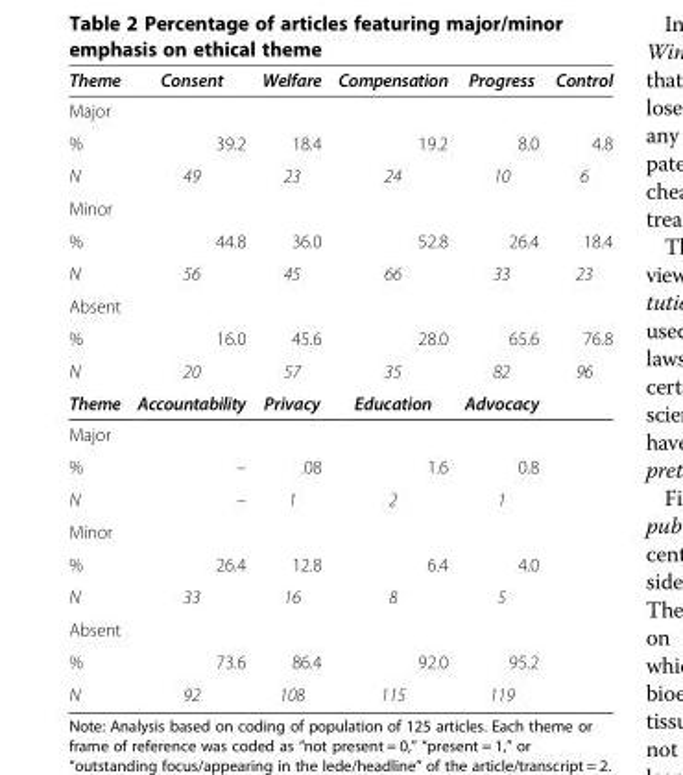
<table><thead><tr><td>Theme</td><td>Consent</td><td>Welfare</td><td>Compensation</td><td>Progress</td><td>Control</td></tr></thead><tbody><tr><td colspan="6">Major</td></tr><tr><td>%</td><td>39.2</td><td>18.4</td><td>19.2</td><td>8.0</td><td>4.8</td></tr><tr><td>N</td><td>49</td><td>23</td><td>24</td><td>10</td><td>6</td></tr><tr><td colspan="6">Minor</td></tr><tr><td>%</td><td>44.8</td><td>36.0</td><td>52.8</td><td>26.4</td><td>18.4</td></tr><tr><td>N</td><td>56</td><td>45</td><td>66</td><td>33</td><td>23</td></tr><tr><td colspan="6">Absent</td></tr><tr><td>%</td><td>16.0</td><td>45.6</td><td>28.0</td><td>65.6</td><td>76.8</td></tr><tr><td>N</td><td>20</td><td>57</td><td>35</td><td>82</td><td>96</td></tr><tr><td>Theme</td><td>Accountability</td><td>Privacy</td><td>Education</td><td>Advocacy</td><td></td></tr><tr><td colspan="6">Major</td></tr><tr><td>%</td><td>–</td><td>.08</td><td>1.6</td><td>0.8</td><td></td></tr><tr><td>N</td><td>–</td><td>1</td><td>2</td><td>1</td><td></td></tr><tr><td colspan="6">Minor</td></tr><tr><td>%</td><td>26.4</td><td>12.8</td><td>6.4</td><td>4.0</td><td></td></tr><tr><td>N</td><td>33</td><td>16</td><td>8</td><td>5</td><td></td></tr><tr><td colspan="6">Absent</td></tr><tr><td>%</td><td>73.6</td><td>86.4</td><td>92.0</td><td>95.2</td><td></td></tr><tr><td>N</td><td>92</td><td>108</td><td>115</td><td>119</td><td></td></tr></tbody></table>